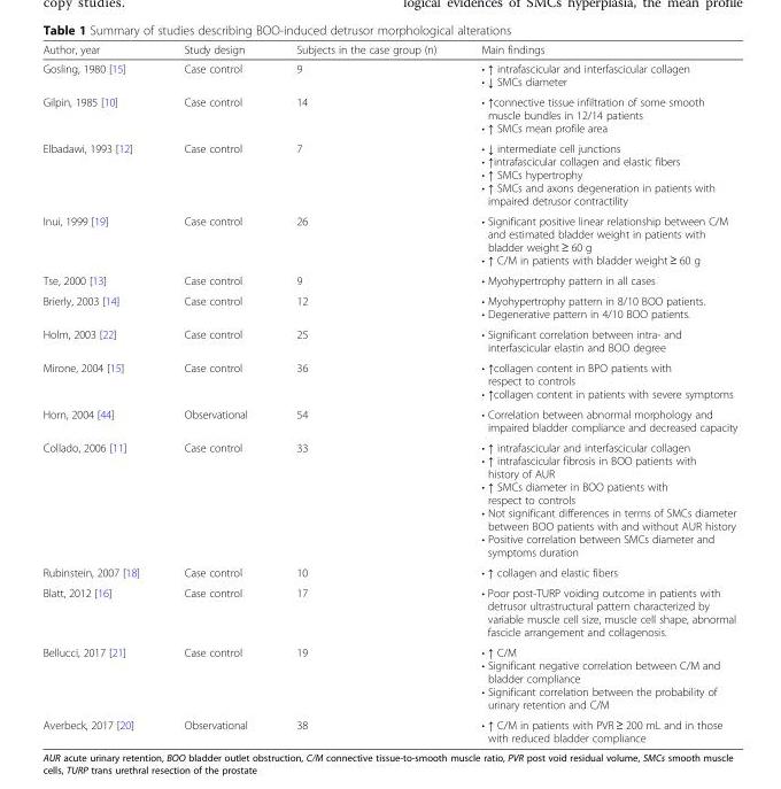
<table><thead><tr><td>Author, year</td><td>Study design</td><td>Subjects in the case group (n)</td><td>Main findings</td></tr></thead><tbody><tr><td>Gosling, 1980 [15]</td><td>Case control</td><td>9</td><td>• ↑ intrafascicular and interfascicular collagen • ↓ SMCs diameter</td></tr><tr><td>Gilpin, 1985 [10]</td><td>Case control</td><td>14</td><td>• ↑connective tissue infiltration of some smooth muscle bundles in 12/14 patients • ↑ SMCs mean profile area</td></tr><tr><td>Elbadawi, 1993 [12]</td><td>Case control</td><td>7</td><td>• ↓ intermediate cell junctions • ↑intrafascicular collagen and elastic fibers • ↑ SMCs hypertrophy • ↑ SMCs and axons degeneration in patients with impaired detrusor contractility</td></tr><tr><td>Inui, 1999 [19]</td><td>Case control</td><td>26</td><td>• Significant positive linear relationship between C/M and estimated bladder weight in patients with bladder weight ≥ 60 g • ↑ C/M in patients with bladder weight ≥ 60 g</td></tr><tr><td>Tse, 2000 [13]</td><td>Case control</td><td>9</td><td>• Myohypertrophy pattern in all cases</td></tr><tr><td>Brierly, 2003 [14]</td><td>Case control</td><td>12</td><td>• Myohypertrophy pattern in 8/10 BOO patients. • Degenerative pattern in 4/10 BOO patients.</td></tr><tr><td>Holm, 2003 [22]</td><td>Case control</td><td>25</td><td>• Significant correlation between intra- and interfascicular elastin and BOO degree</td></tr><tr><td>Mirone, 2004 [15]</td><td>Case control</td><td>36</td><td>• ↑collagen content in BPO patients with respect to controls • ↑collagen content in patients with severe symptoms</td></tr><tr><td>Horn, 2004 [44]</td><td>Observational</td><td>54</td><td>• Correlation between abnormal morphology and impaired bladder compliance and decreased capacity</td></tr><tr><td>Collado, 2006 [11]</td><td>Case control</td><td>33</td><td>• ↑ intrafascicular and interfascicular collagen • ↑ intrafascicular fibrosis in BOO patients with history of AUR • ↑ SMCs diameter in BOO patients with respect to controls • Not significant differences in terms of SMCs diameter between BOO patients with and without AUR history • Positive correlation between SMCs diameter and symptoms duration</td></tr><tr><td>Rubinstein, 2007 [18]</td><td>Case control</td><td>10</td><td>• ↑ collagen and elastic fibers</td></tr><tr><td>Blatt, 2012 [16]</td><td>Case control</td><td>17</td><td>• Poor post-TURP voiding outcome in patients with detrusor ultrastructural pattern characterized by variable muscle cell size, muscle cell shape, abnormal fascicle arrangement and collagenosis.</td></tr><tr><td>Bellucci, 2017 [21]</td><td>Case control</td><td>19</td><td>• ↑ C/M • Significant negative correlation between C/M and bladder compliance • Significant correlation between the probability of urinary retention and C/M</td></tr><tr><td>Averbeck, 2017 [20]</td><td>Observational</td><td>38</td><td>• ↑ C/M in patients with PVR ≥ 200 mL and in those with reduced bladder compliance</td></tr></tbody></table>